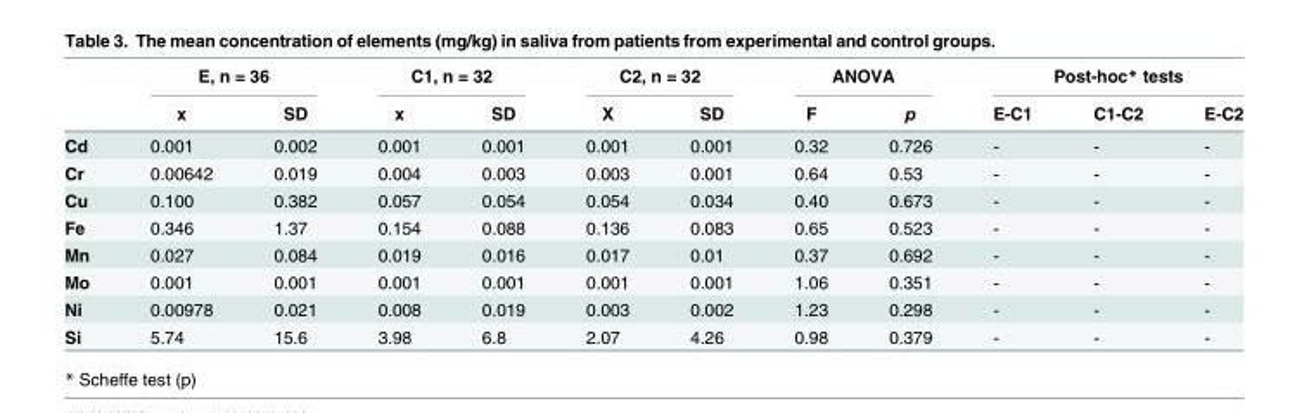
<table><thead><tr><td rowspan="2"></td><td colspan="2">E, n = 36</td><td colspan="2">C1, n = 32</td><td colspan="2">C2, n = 32</td><td colspan="2">ANOVA</td><td colspan="3">Post-hoc* tests</td></tr><tr><td>x</td><td>SD</td><td>x</td><td>SD</td><td>X</td><td>SD</td><td>F</td><td>p</td><td>E-C1</td><td>C1-C2</td><td>E-C2</td></tr></thead><tbody><tr><td>Cd</td><td>0.001</td><td>0.002</td><td>0.001</td><td>0.001</td><td>0.001</td><td>0.001</td><td>0.32</td><td>0.726</td><td>-</td><td>-</td><td>-</td></tr><tr><td>Cr</td><td>0.00642</td><td>0.019</td><td>0.004</td><td>0.003</td><td>0.003</td><td>0.001</td><td>0.64</td><td>0.53</td><td>-</td><td>-</td><td>-</td></tr><tr><td>Cu</td><td>0.100</td><td>0.382</td><td>0.057</td><td>0.054</td><td>0.054</td><td>0.034</td><td>0.40</td><td>0.673</td><td>-</td><td>-</td><td>-</td></tr><tr><td>Fe</td><td>0.346</td><td>1.37</td><td>0.154</td><td>0.088</td><td>0.136</td><td>0.083</td><td>0.65</td><td>0.523</td><td>-</td><td>-</td><td>-</td></tr><tr><td>Mn</td><td>0.027</td><td>0.084</td><td>0.019</td><td>0.016</td><td>0.017</td><td>0.01</td><td>0.37</td><td>0.692</td><td>-</td><td>-</td><td>-</td></tr><tr><td>Mo</td><td>0.001</td><td>0.001</td><td>0.001</td><td>0.001</td><td>0.001</td><td>0.001</td><td>1.06</td><td>0.351</td><td>-</td><td>-</td><td>-</td></tr><tr><td>Ni</td><td>0.00978</td><td>0.021</td><td>0.008</td><td>0.019</td><td>0.003</td><td>0.002</td><td>1.23</td><td>0.298</td><td>-</td><td>-</td><td>-</td></tr><tr><td>Si</td><td>5.74</td><td>15.6</td><td>3.98</td><td>6.8</td><td>2.07</td><td>4.26</td><td>0.98</td><td>0.379</td><td>-</td><td>-</td><td>-</td></tr></tbody></table>